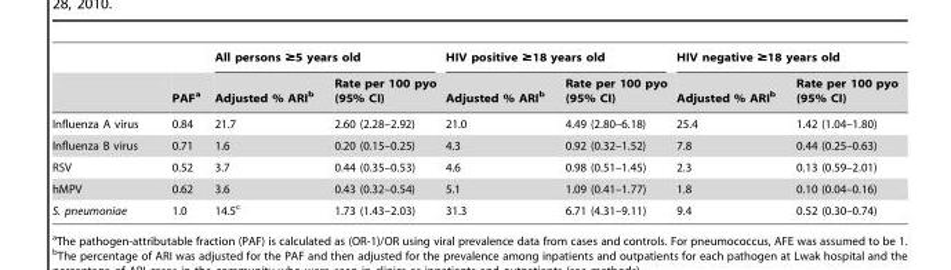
<table><thead><tr><td rowspan="2"></td><td rowspan="2">PAF<sup>a</sup></td><td colspan="2">All persons ≥5 years old</td><td colspan="2">HIV positive ≥18 years old</td><td colspan="2">HIV negative ≥18 years old</td></tr><tr><td>Adjusted % ARI<sup>b</sup></td><td>Rate per 100 pyo (95% CI)</td><td>Adjusted % ARI<sup>b</sup></td><td>Rate per 100 pyo (95% CI)</td><td>Adjusted % ARI<sup>b</sup></td><td>Rate per 100 pyo (95% CI)</td></tr></thead><tbody><tr><td>Influenza A virus</td><td>0.84</td><td>21.7</td><td>2.60 (2.28–2.92)</td><td>21.0</td><td>4.49 (2.80–6.18)</td><td>25.4</td><td>1.42 (1.04–1.80)</td></tr><tr><td>Influenza B virus</td><td>0.71</td><td>1.6</td><td>0.20 (0.15–0.25)</td><td>4.3</td><td>0.92 (0.32–1.52)</td><td>7.8</td><td>0.44 (0.25–0.63)</td></tr><tr><td>RSV</td><td>0.52</td><td>3.7</td><td>0.44 (0.35–0.53)</td><td>4.6</td><td>0.98 (0.51–1.45)</td><td>2.3</td><td>0.13 (0.59–2.01)</td></tr><tr><td>hMPV</td><td>0.62</td><td>3.6</td><td>0.43 (0.32–0.54)</td><td>5.1</td><td>1.09 (0.41–1.77)</td><td>1.8</td><td>0.10 (0.04–0.16)</td></tr><tr><td>S. pneumoniae</td><td>1.0</td><td>14.5<sup>c</sup></td><td>1.73 (1.43–2.03)</td><td>31.3</td><td>6.71 (4.31–9.11)</td><td>9.4</td><td>0.52 (0.30–0.74)</td></tr></tbody></table>